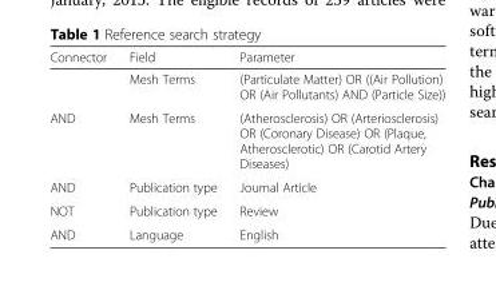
<table><thead><tr><td>Connector</td><td>Field</td><td>Parameter</td></tr></thead><tbody><tr><td></td><td>Mesh Terms</td><td>(Particulate Matter) OR ((Air Pollution) OR (Air Pollutants) AND (Particle Size))</td></tr><tr><td>AND</td><td>Mesh Terms</td><td>(Atherosclerosis) OR (Arteriosclerosis) OR (Coronary Disease) OR (Plaque, Atherosclerotic) OR (Carotid Artery Diseases)</td></tr><tr><td>AND</td><td>Publication type</td><td>Journal Article</td></tr><tr><td>NOT</td><td>Publication type</td><td>Review</td></tr><tr><td>AND</td><td>Language</td><td>English</td></tr></tbody></table>